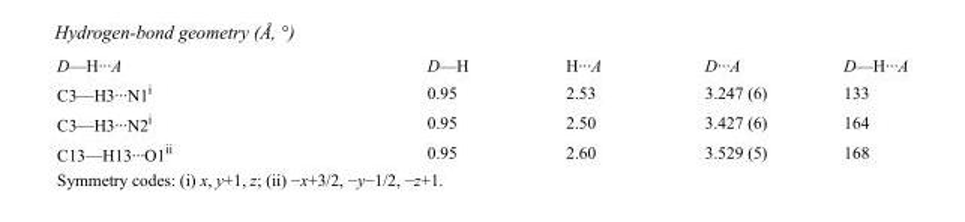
<table><tbody><tr><td>D—H···A</td><td>D—H</td><td>H···A</td><td>D···A</td><td>D—H···A</td></tr><tr><td>C3—H3···N1<sup>i</sup></td><td>0.95</td><td>2.53</td><td>3.247 (6)</td><td>133</td></tr><tr><td>C3—H3···N2<sup>i</sup></td><td>0.95</td><td>2.50</td><td>3.427 (6)</td><td>164</td></tr><tr><td>C13—H13···O1<sup>ii</sup></td><td>0.95</td><td>2.60</td><td>3.529 (5)</td><td>168</td></tr></tbody></table>